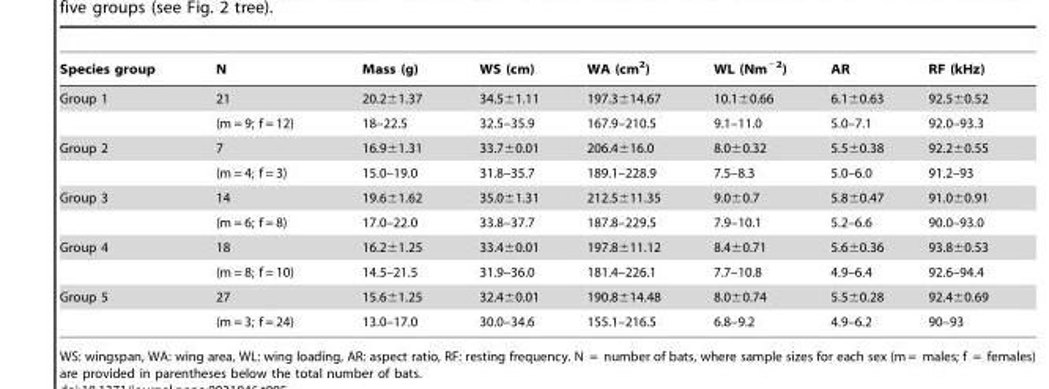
<table><thead><tr><td>Species group</td><td>N</td><td>Mass (g)</td><td>WS (cm)</td><td>WA (cm<sup>2</sup>)</td><td>WL (Nm<sup>−2</sup>)</td><td>AR</td><td>RF (kHz)</td></tr></thead><tbody><tr><td rowspan="2">Group 1</td><td>21</td><td>20.2±1.37</td><td>34.5±1.11</td><td>197.3±14.67</td><td>10.1±0.66</td><td>6.1±0.63</td><td>92.5±0.52</td></tr><tr><td>(m = 9; f = 12)</td><td>18–22.5</td><td>32.5–35.9</td><td>167.9–210.5</td><td>9.1–11.0</td><td>5.0–7.1</td><td>92.0–93.3</td></tr><tr><td rowspan="2">Group 2</td><td>7</td><td>16.9±1.31</td><td>33.7±0.01</td><td>206.4±16.0</td><td>8.0±0.32</td><td>5.5±0.38</td><td>92.2±0.55</td></tr><tr><td>(m = 4; f = 3)</td><td>15.0–19.0</td><td>31.8–35.7</td><td>189.1–228.9</td><td>7.5–8.3</td><td>5.0–6.0</td><td>91.2–93</td></tr><tr><td rowspan="2">Group 3</td><td>14</td><td>19.6±1.62</td><td>35.0±1.31</td><td>212.5±11.35</td><td>9.0±0.7</td><td>5.8±0.47</td><td>91.0±0.91</td></tr><tr><td>(m = 6; f = 8)</td><td>17.0–22.0</td><td>33.8–37.7</td><td>187.8–229.5</td><td>7.9–10.1</td><td>5.2–6.6</td><td>90.0–93.0</td></tr><tr><td rowspan="2">Group 4</td><td>18</td><td>16.2±1.25</td><td>33.4±0.01</td><td>197.8±11.12</td><td>8.4±0.71</td><td>5.6±0.36</td><td>93.8±0.53</td></tr><tr><td>(m = 8; f = 10)</td><td>14.5–21.5</td><td>31.9–36.0</td><td>181.4–226.1</td><td>7.7–10.8</td><td>4.9–6.4</td><td>92.6–94.4</td></tr><tr><td rowspan="2">Group 5</td><td>27</td><td>15.6±1.25</td><td>32.4±0.01</td><td>190.8±14.48</td><td>8.0±0.74</td><td>5.5±0.28</td><td>92.4±0.69</td></tr><tr><td>(m = 3; f = 24)</td><td>13.0–17.0</td><td>30.0–34.6</td><td>155.1–216.5</td><td>6.8–9.2</td><td>4.9–6.2</td><td>90–93</td></tr></tbody></table>